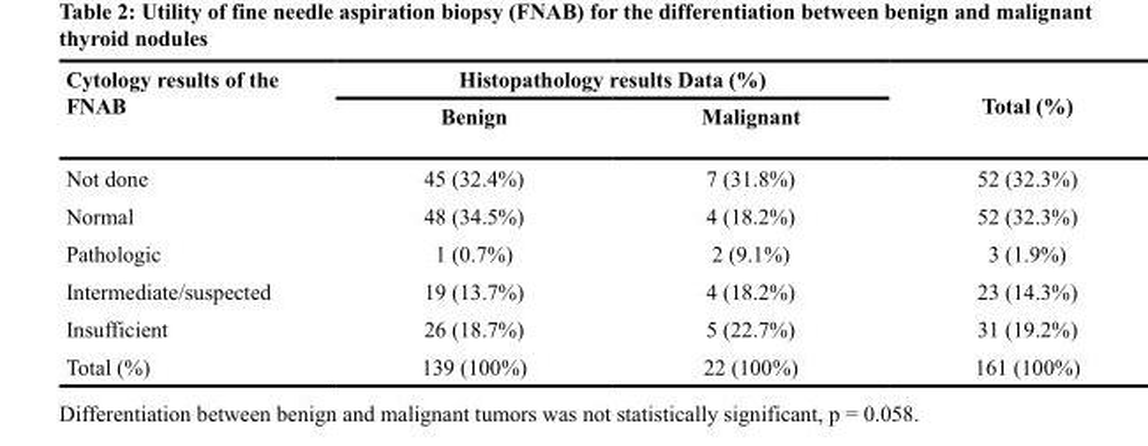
<table><thead><tr><td rowspan="2">Cytology results of the FNAB</td><td colspan="2">Histopathology results Data (%)</td><td rowspan="2">Total (%)</td></tr><tr><td>Benign</td><td>Malignant</td></tr></thead><tbody><tr><td>Not done</td><td>45 (32.4%)</td><td>7 (31.8%)</td><td>52 (32.3%)</td></tr><tr><td>Normal</td><td>48 (34.5%)</td><td>4 (18.2%)</td><td>52 (32.3%)</td></tr><tr><td>Pathologic</td><td>1 (0.7%)</td><td>2 (9.1%)</td><td>3 (1.9%)</td></tr><tr><td>Intermediate/suspected</td><td>19 (13.7%)</td><td>4 (18.2%)</td><td>23 (14.3%)</td></tr><tr><td>Insufficient</td><td>26 (18.7%)</td><td>5 (22.7%)</td><td>31 (19.2%)</td></tr><tr><td>Total (%)</td><td>139 (100%)</td><td>22 (100%)</td><td>161 (100%)</td></tr></tbody></table>